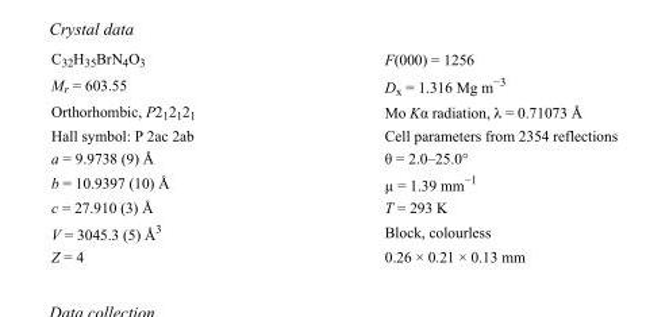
<table><tbody><tr><td>C<sub>32</sub>H<sub>35</sub>BrN<sub>4</sub>O<sub>3</sub></td><td>F(000) = 1256</td></tr><tr><td>M<sub>r</sub> = 603.55</td><td>D<sub>x</sub> = 1.316 Mg m<sup>−3</sup></td></tr><tr><td>Orthorhombic, P2<sub>1</sub>2<sub>1</sub>2<sub>1</sub></td><td>Mo Kα radiation, λ = 0.71073 Å</td></tr><tr><td>Hall symbol: P 2ac 2ab</td><td>Cell parameters from 2354 reflections</td></tr><tr><td>a = 9.9738 (9) Å</td><td>θ = 2.0–25.0°</td></tr><tr><td>b = 10.9397 (10) Å</td><td>µ = 1.39 mm<sup>−1</sup></td></tr><tr><td>c = 27.910 (3) Å</td><td>T = 293 K</td></tr><tr><td>V = 3045.3 (5) Å<sup>3</sup></td><td>Block, colourless</td></tr><tr><td>Z = 4</td><td>0.26 × 0.21 × 0.13 mm</td></tr></tbody></table>